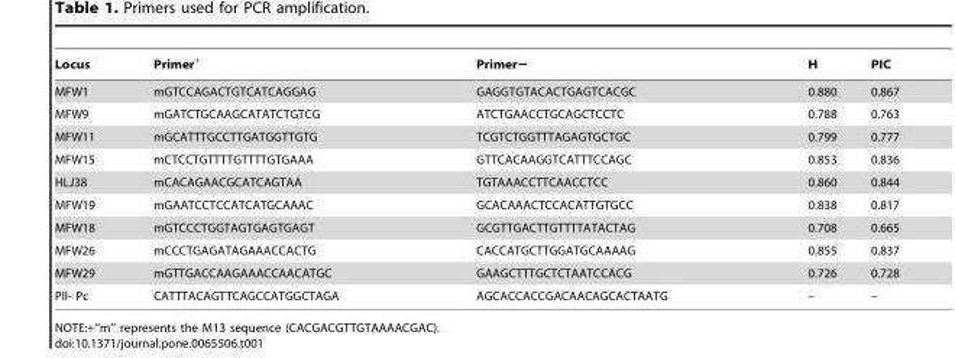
<table><thead><tr><td>Locus</td><td>Primer<sup>+</sup></td><td>Primer−</td><td>H</td><td>PIC</td></tr></thead><tbody><tr><td>MFW1</td><td>mGTCCAGACTGTCATCAGGAG</td><td>GAGGTGTACACTGAGTCACGC</td><td>0.880</td><td>0.867</td></tr><tr><td>MFW9</td><td>mGATCTGCAAGCATATCTGTCG</td><td>ATCTGAACCTGCAGCTCCTC</td><td>0.788</td><td>0.763</td></tr><tr><td>MFW11</td><td>mGCATTTGCCTTGATGGTTGTG</td><td>TCGTCTGGTTTAGAGTGCTGC</td><td>0.799</td><td>0.777</td></tr><tr><td>MFW15</td><td>mCTCCTGTTTTGTTTTGTGAAA</td><td>GTTCACAAGGTCATTTCCAGC</td><td>0.853</td><td>0.836</td></tr><tr><td>HLJ38</td><td>mCACAGAACGCATCAGTAA</td><td>TGTAAACCTTCAACCTCC</td><td>0.860</td><td>0.844</td></tr><tr><td>MFW19</td><td>mGAATCCTCCATCATGCAAAC</td><td>GCACAAACTCCACATTGTGCC</td><td>0.838</td><td>0.817</td></tr><tr><td>MFW18</td><td>mGTCCCTGGTAGTGAGTGAGT</td><td>GCGTTGACTTGTTTTATACTAG</td><td>0.708</td><td>0.665</td></tr><tr><td>MFW26</td><td>mCCCTGAGATAGAAACCACTG</td><td>CACCATGCTTGGATGCAAAAG</td><td>0.855</td><td>0.837</td></tr><tr><td>MFW29</td><td>mGTTGACCAAGAAACCAACATGC</td><td>GAAGCTTTGCTCTAATCCACG</td><td>0.726</td><td>0.728</td></tr><tr><td>PII- Pc</td><td>CATTTACAGTTCAGCCATGGCTAGA</td><td>AGCACCACCGACAACAGCACTAATG</td><td>–</td><td>–</td></tr></tbody></table>